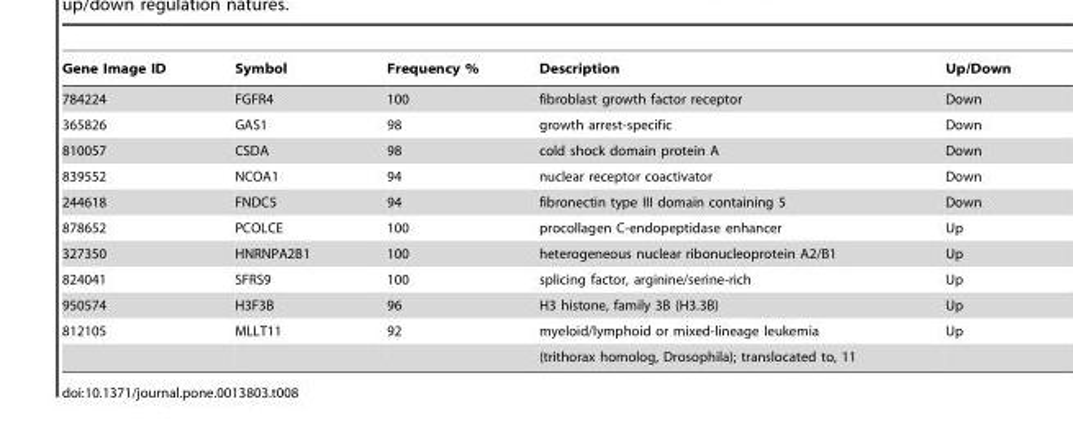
<table><thead><tr><td>Gene Image ID</td><td>Symbol</td><td>Frequency %</td><td>Description</td><td>Up/Down</td></tr></thead><tbody><tr><td>784224</td><td>FGFR4</td><td>100</td><td>fibroblast growth factor receptor</td><td>Down</td></tr><tr><td>365826</td><td>GAS1</td><td>98</td><td>growth arrest-specific</td><td>Down</td></tr><tr><td>810057</td><td>CSDA</td><td>98</td><td>cold shock domain protein A</td><td>Down</td></tr><tr><td>839552</td><td>NCOA1</td><td>94</td><td>nuclear receptor coactivator</td><td>Down</td></tr><tr><td>244618</td><td>FNDC5</td><td>94</td><td>fibronectin type III domain containing 5</td><td>Down</td></tr><tr><td>878652</td><td>PCOLCE</td><td>100</td><td>procollagen C-endopeptidase enhancer</td><td>Up</td></tr><tr><td>327350</td><td>HNRNPA2B1</td><td>100</td><td>heterogeneous nuclear ribonucleoprotein A2/B1</td><td>Up</td></tr><tr><td>824041</td><td>SFRS9</td><td>100</td><td>splicing factor, arginine/serine-rich</td><td>Up</td></tr><tr><td>950574</td><td>H3F3B</td><td>96</td><td>H3 histone, family 3B (H3.3B)</td><td>Up</td></tr><tr><td rowspan="2">812105</td><td>MLLT11</td><td>92</td><td>myeloid/lymphoid or mixed-lineage leukemia</td><td>Up</td></tr><tr><td></td><td></td><td>(trithorax homolog, Drosophila); translocated to, 11</td><td></td></tr></tbody></table>